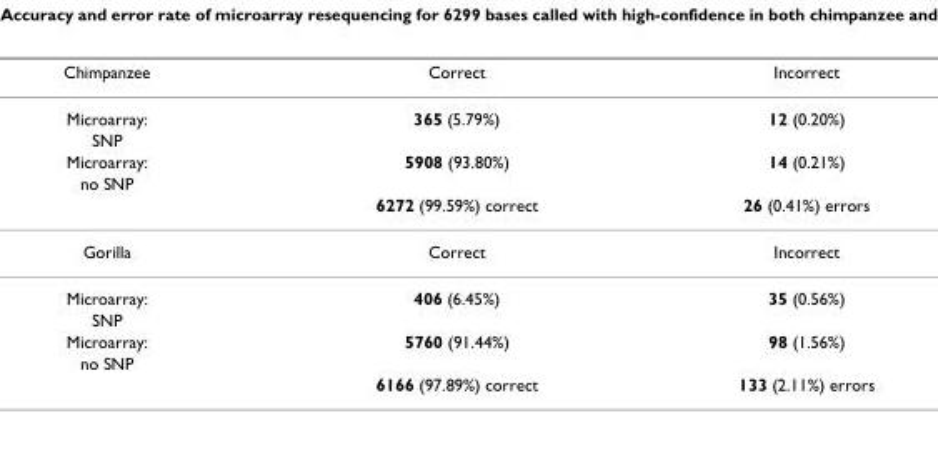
<table><thead><tr><td>Chimpanzee</td><td>Correct</td><td>Incorrect</td></tr></thead><tbody><tr><td>Microarray:</td><td>365 (5.79%)</td><td>12 (0.20%)</td></tr><tr><td colspan="3">SNP</td></tr><tr><td>Microarray:</td><td>5908 (93.80%)</td><td>14 (0.21%)</td></tr><tr><td colspan="3">no SNP</td></tr><tr><td></td><td>6272 (99.59%) correct</td><td>26 (0.41%) errors</td></tr><tr><td>Gorilla</td><td>Correct</td><td>Incorrect</td></tr><tr><td>Microarray:</td><td>406 (6.45%)</td><td>35 (0.56%)</td></tr><tr><td colspan="3">SNP</td></tr><tr><td>Microarray:</td><td>5760 (91.44%)</td><td>98 (1.56%)</td></tr><tr><td colspan="3">no SNP</td></tr><tr><td></td><td>6166 (97.89%) correct</td><td>133 (2.11%) errors</td></tr></tbody></table>